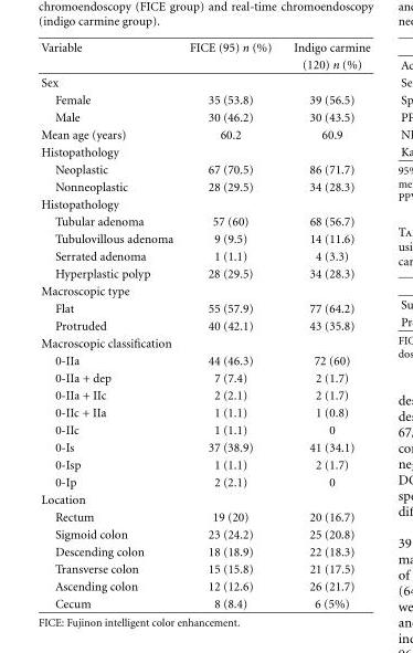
<table><thead><tr><td>Variable</td><td>FICE (95) n (%)</td><td>Indigo carmine (120) n (%)</td></tr></thead><tbody><tr><td colspan="3">Sex</td></tr><tr><td>Female</td><td>35 (53.8)</td><td>39 (56.5)</td></tr><tr><td>Male</td><td>30 (46.2)</td><td>30 (43.5)</td></tr><tr><td>Mean age (years)</td><td>60.2</td><td>60.9</td></tr><tr><td colspan="3">Histopathology</td></tr><tr><td>Neoplastic</td><td>67 (70.5)</td><td>86 (71.7)</td></tr><tr><td>Nonneoplastic</td><td>28 (29.5)</td><td>34 (28.3)</td></tr><tr><td colspan="3">Histopathology</td></tr><tr><td>Tubular adenoma</td><td>57 (60)</td><td>68 (56.7)</td></tr><tr><td>Tubulovillous adenoma</td><td>9 (9.5)</td><td>14 (11.6)</td></tr><tr><td>Serrated adenoma</td><td>1 (1.1)</td><td>4 (3.3)</td></tr><tr><td>Hyperplastic polyp</td><td>28 (29.5)</td><td>34 (28.3)</td></tr><tr><td colspan="3">Macroscopic type</td></tr><tr><td>Flat</td><td>55 (57.9)</td><td>77 (64.2)</td></tr><tr><td>Protruded</td><td>40 (42.1)</td><td>43 (35.8)</td></tr><tr><td colspan="3">Macroscopic classification</td></tr><tr><td>0-IIa</td><td>44 (46.3)</td><td>72 (60)</td></tr><tr><td>0-IIa + dep</td><td>7 (7.4)</td><td>2 (1.7)</td></tr><tr><td>0-IIa + IIc</td><td>2 (2.1)</td><td>2 (1.7)</td></tr><tr><td>0-IIc + IIa</td><td>1 (1.1)</td><td>1 (0.8)</td></tr><tr><td>0-IIc</td><td>1 (1.1)</td><td>0</td></tr><tr><td>0-Is</td><td>37 (38.9)</td><td>41 (34.1)</td></tr><tr><td>0-Isp</td><td>1 (1.1)</td><td>2 (1.7)</td></tr><tr><td>0-Ip</td><td>2 (2.1)</td><td>0</td></tr><tr><td colspan="3">Location</td></tr><tr><td>Rectum</td><td>19 (20)</td><td>20 (16.7)</td></tr><tr><td>Sigmoid colon</td><td>23 (24.2)</td><td>25 (20.8)</td></tr><tr><td>Descending colon</td><td>18 (18.9)</td><td>22 (18.3)</td></tr><tr><td>Transverse colon</td><td>15 (15.8)</td><td>21 (17.5)</td></tr><tr><td>Ascending colon</td><td>12 (12.6)</td><td>26 (21.7)</td></tr><tr><td>Cecum</td><td>8 (8.4)</td><td>6 (5%)</td></tr></tbody></table>